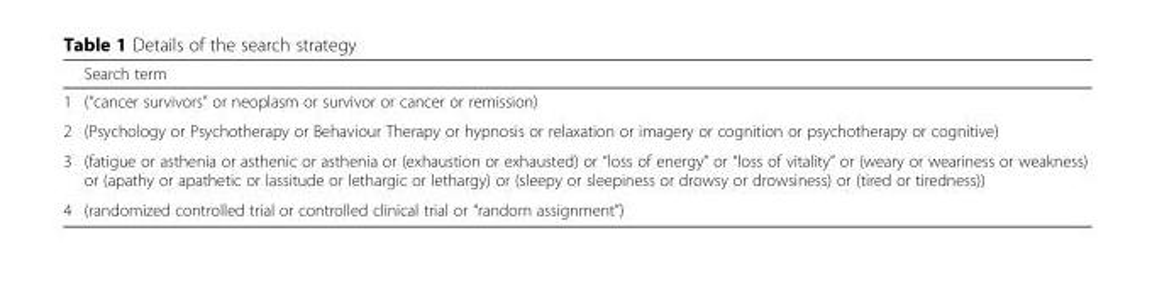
<table><thead><tr><td></td><td>Search term</td></tr></thead><tbody><tr><td>1</td><td>(“cancer survivors” or neoplasm or survivor or cancer or remission)</td></tr><tr><td>2</td><td>(Psychology or Psychotherapy or Behaviour Therapy or hypnosis or relaxation or imagery or cognition or psychotherapy or cognitive)</td></tr><tr><td>3</td><td>(fatigue or asthenia or asthenic or asthenia or (exhaustion or exhausted) or “loss of energy” or “loss of vitality” or (weary or weariness or weakness) or (apathy or apathetic or lassitude or lethargic or lethargy) or (sleepy or sleepiness or drowsy or drowsiness) or (tired or tiredness))</td></tr><tr><td>4</td><td>(randomized controlled trial or controlled clinical trial or “random assignment”)</td></tr></tbody></table>